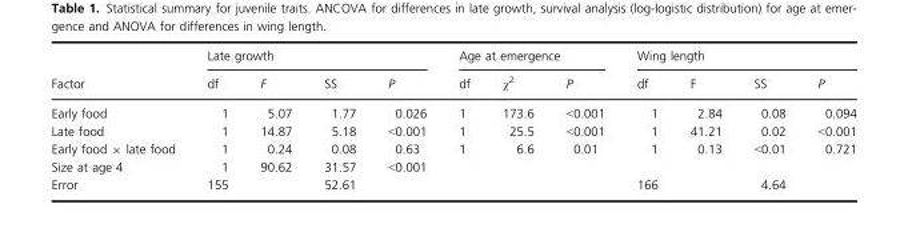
<table><thead><tr><td rowspan="2">Factor</td><td colspan="4">Late growth</td><td colspan="3">Age at emergence</td><td colspan="4">Wing length</td></tr><tr><td>df</td><td>F</td><td>SS</td><td>P</td><td>df</td><td>χ<sup>2</sup></td><td>P</td><td>df</td><td>F</td><td>SS</td><td>P</td></tr></thead><tbody><tr><td>Early food</td><td>1</td><td>5.07</td><td>1.77</td><td>0.026</td><td>1</td><td>173.6</td><td>&lt;0.001</td><td>1</td><td>2.84</td><td>0.08</td><td>0.094</td></tr><tr><td>Late food</td><td>1</td><td>14.87</td><td>5.18</td><td>&lt;0.001</td><td>1</td><td>25.5</td><td>&lt;0.001</td><td>1</td><td>41.21</td><td>0.02</td><td>&lt;0.001</td></tr><tr><td>Early food × late food</td><td>1</td><td>0.24</td><td>0.08</td><td>0.63</td><td>1</td><td>6.6</td><td>0.01</td><td>1</td><td>0.13</td><td>&lt;0.01</td><td>0.721</td></tr><tr><td>Size at age 4</td><td>1</td><td>90.62</td><td>31.57</td><td>&lt;0.001</td><td></td><td></td><td></td><td></td><td></td><td></td><td></td></tr><tr><td>Error</td><td>155</td><td></td><td>52.61</td><td></td><td></td><td></td><td></td><td>166</td><td></td><td>4.64</td><td></td></tr></tbody></table>